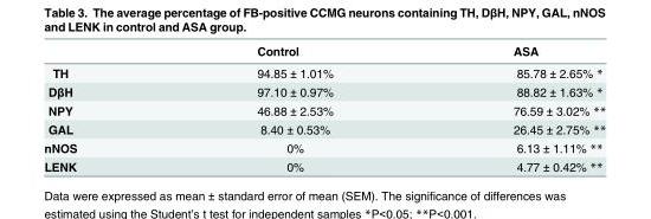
<table><thead><tr><td></td><td>Control</td><td>ASA</td></tr></thead><tbody><tr><td>TH</td><td>94.85 ± 1.01%</td><td>85.78 ± 2.65% *</td></tr><tr><td>DβH</td><td>97.10 ± 0.97%</td><td>88.82 ± 1.63% *</td></tr><tr><td>NPY</td><td>46.88 ± 2.53%</td><td>76.59 ± 3.02% **</td></tr><tr><td>GAL</td><td>8.40 ± 0.53%</td><td>26.45 ± 2.75% **</td></tr><tr><td>nNOS</td><td>0%</td><td>6.13 ± 1.11% **</td></tr><tr><td>LENK</td><td>0%</td><td>4.77 ± 0.42% **</td></tr></tbody></table>